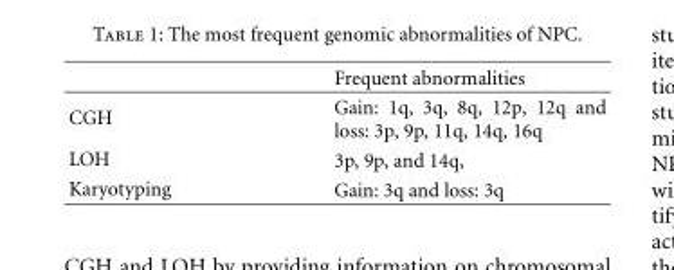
<table><thead><tr><td></td><td>Frequent abnormalities</td></tr></thead><tbody><tr><td>CGH</td><td>Gain: 1q, 3q, 8q, 12p, 12q and loss: 3p, 9p, 11q, 14q, 16q</td></tr><tr><td>LOH</td><td>3p, 9p, and 14q,</td></tr><tr><td>Karyotyping</td><td>Gain: 3q and loss: 3q</td></tr></tbody></table>